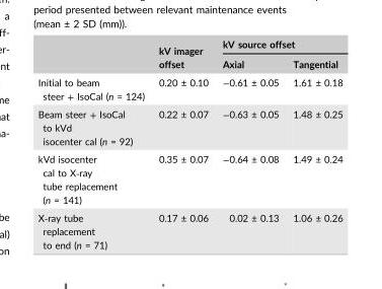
<table><thead><tr><td rowspan="2"></td><td rowspan="2">kV imager offset</td><td colspan="2">kV source offset</td></tr><tr><td>Axial</td><td>Tangential</td></tr></thead><tbody><tr><td>Initial to beam steer + IsoCal (n = 124)</td><td>0.20 ± 0.10</td><td>−0.61 ± 0.05</td><td>1.61 ± 0.18</td></tr><tr><td>Beam steer + IsoCal to kVd isocenter cal (n = 92)</td><td>0.22 ± 0.07</td><td>−0.63 ± 0.05</td><td>1.48 ± 0.25</td></tr><tr><td>kVd isocenter cal to X‐ray tube replacement (n = 141)</td><td>0.35 ± 0.07</td><td>−0.64 ± 0.08</td><td>1.49 ± 0.24</td></tr><tr><td>X‐ray tube replacement to end (n = 71)</td><td>0.17 ± 0.06</td><td>0.02 ± 0.13</td><td>1.06 ± 0.26</td></tr></tbody></table>